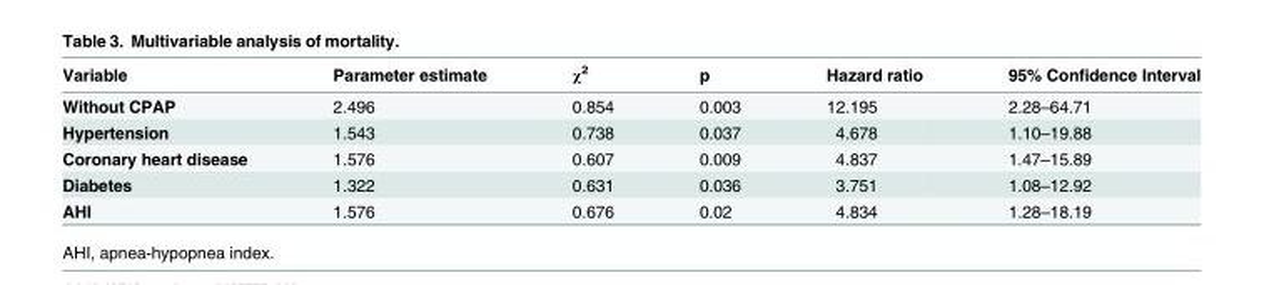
<table><thead><tr><td>Variable</td><td>Parameter estimate</td><td>χ<sup>2</sup></td><td>p</td><td>Hazard ratio</td><td>95% Confidence Interval</td></tr></thead><tbody><tr><td>Without CPAP</td><td>2.496</td><td>0.854</td><td>0.003</td><td>12.195</td><td>2.28–64.71</td></tr><tr><td>Hypertension</td><td>1.543</td><td>0.738</td><td>0.037</td><td>4.678</td><td>1.10–19.88</td></tr><tr><td>Coronary heart disease</td><td>1.576</td><td>0.607</td><td>0.009</td><td>4.837</td><td>1.47–15.89</td></tr><tr><td>Diabetes</td><td>1.322</td><td>0.631</td><td>0.036</td><td>3.751</td><td>1.08–12.92</td></tr><tr><td>AHI</td><td>1.576</td><td>0.676</td><td>0.02</td><td>4.834</td><td>1.28–18.19</td></tr></tbody></table>